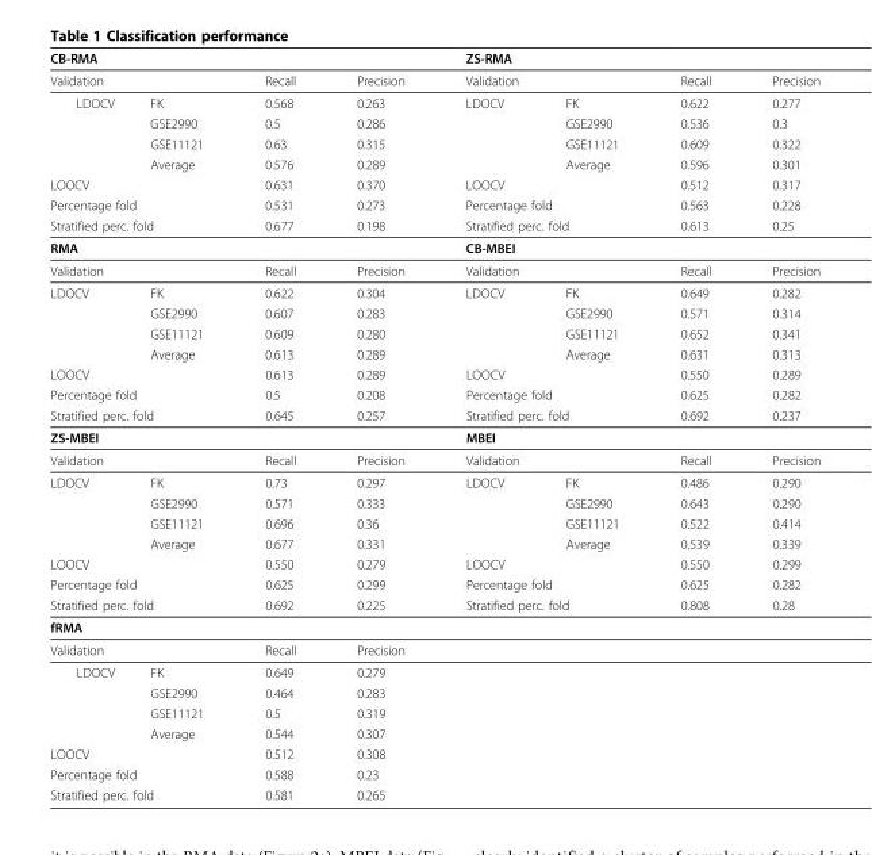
<table><thead><tr><td colspan="4">CB-RMA</td><td colspan="4">ZS-RMA</td></tr><tr><td colspan="2">Validation</td><td rowspan="2">Recall 0.568</td><td rowspan="2">Precision 0.263</td><td colspan="2">Validation</td><td rowspan="2">Recall 0.622</td><td rowspan="2">Precision 0.277</td></tr><tr><td>LDOCV</td><td>FK</td><td>LDOCV</td><td>FK</td></tr></thead><tbody><tr><td></td><td>GSE2990</td><td>0.5</td><td>0.286</td><td></td><td>GSE2990</td><td>0.536</td><td>0.3</td></tr><tr><td></td><td>GSE11121</td><td>0.63</td><td>0.315</td><td></td><td>GSE11121</td><td>0.609</td><td>0.322</td></tr><tr><td></td><td>Average</td><td>0.576</td><td>0.289</td><td></td><td>Average</td><td>0.596</td><td>0.301</td></tr><tr><td colspan="2">LOOCV</td><td>0.631</td><td>0.370</td><td colspan="2">LOOCV</td><td>0.512</td><td>0.317</td></tr><tr><td colspan="2">Percentage fold</td><td>0.531</td><td>0.273</td><td colspan="2">Percentage fold</td><td>0.563</td><td>0.228</td></tr><tr><td colspan="2">Stratified perc. fold</td><td>0.677</td><td>0.198</td><td colspan="2">Stratified perc. fold</td><td>0.613</td><td>0.25</td></tr><tr><td colspan="4">RMA</td><td colspan="4">CB-MBEI</td></tr><tr><td colspan="2">Validation</td><td>Recall</td><td>Precision</td><td colspan="2">Validation</td><td>Recall</td><td>Precision</td></tr><tr><td rowspan="4">LDOCV</td><td>FK</td><td>0.622</td><td>0.304</td><td>LDOCV</td><td>FK</td><td>0.649</td><td>0.282</td></tr><tr><td>GSE2990</td><td>0.607</td><td>0.283</td><td></td><td>GSE2990</td><td>0.571</td><td>0.314</td></tr><tr><td>GSE11121</td><td>0.609</td><td>0.280</td><td></td><td>GSE11121</td><td>0.652</td><td>0.341</td></tr><tr><td>Average</td><td>0.613</td><td>0.289</td><td></td><td>Average</td><td>0.631</td><td>0.313</td></tr><tr><td colspan="2">LOOCV</td><td>0.613</td><td>0.289</td><td colspan="2">LOOCV</td><td>0.550</td><td>0.289</td></tr><tr><td colspan="2">Percentage fold</td><td>0.5</td><td>0.208</td><td colspan="2">Percentage fold</td><td>0.625</td><td>0.282</td></tr><tr><td colspan="2">Stratified perc. fold</td><td>0.645</td><td>0.257</td><td colspan="2">Stratified perc. fold</td><td>0.692</td><td>0.237</td></tr><tr><td colspan="4">ZS-MBEI</td><td colspan="4">MBEI</td></tr><tr><td colspan="2">Validation</td><td>Recall</td><td>Precision</td><td colspan="2">Validation</td><td>Recall</td><td>Precision</td></tr><tr><td rowspan="4">LDOCV</td><td>FK</td><td>0.73</td><td>0.297</td><td>LDOCV</td><td>FK</td><td>0.486</td><td>0.290</td></tr><tr><td>GSE2990</td><td>0.571</td><td>0.333</td><td></td><td>GSE2990</td><td>0.643</td><td>0.290</td></tr><tr><td>GSE11121</td><td>0.696</td><td>0.36</td><td></td><td>GSE11121</td><td>0.522</td><td>0.414</td></tr><tr><td>Average</td><td>0.677</td><td>0.331</td><td></td><td>Average</td><td>0.539</td><td>0.339</td></tr><tr><td colspan="2">LOOCV</td><td>0.550</td><td>0.279</td><td colspan="2">LOOCV</td><td>0.550</td><td>0.299</td></tr><tr><td colspan="2">Percentage fold</td><td>0.625</td><td>0.299</td><td colspan="2">Percentage fold</td><td>0.625</td><td>0.282</td></tr><tr><td colspan="2">Stratified perc. fold</td><td>0.692</td><td>0.225</td><td colspan="2">Stratified perc. fold</td><td>0.808</td><td>0.28</td></tr><tr><td colspan="8">fRMA</td></tr><tr><td colspan="2">Validation</td><td>Recall</td><td>Precision</td><td></td><td></td><td></td><td></td></tr><tr><td rowspan="4">LDOCV</td><td>FK</td><td>0.649</td><td>0.279</td><td></td><td></td><td></td><td></td></tr><tr><td>GSE2990</td><td>0.464</td><td>0.283</td><td></td><td></td><td></td><td></td></tr><tr><td>GSE11121</td><td>0.5</td><td>0.319</td><td></td><td></td><td></td><td></td></tr><tr><td>Average</td><td>0.544</td><td>0.307</td><td></td><td></td><td></td><td></td></tr><tr><td colspan="2">LOOCV</td><td>0.512</td><td>0.308</td><td></td><td></td><td></td><td></td></tr><tr><td colspan="2">Percentage fold</td><td>0.588</td><td>0.23</td><td></td><td></td><td></td><td></td></tr><tr><td colspan="2">Stratified perc. fold</td><td>0.581</td><td>0.265</td><td></td><td></td><td></td><td></td></tr></tbody></table>